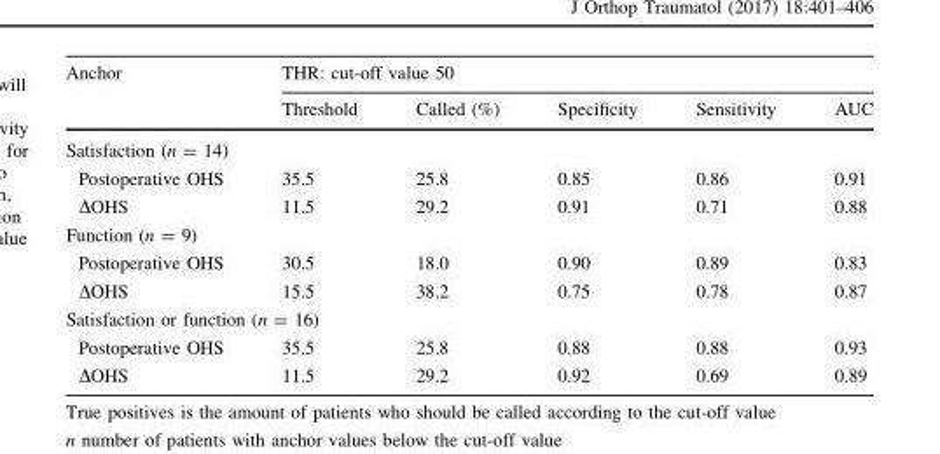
<table><thead><tr><td rowspan="2">Anchor</td><td colspan="5">THR: cut-off value 50</td></tr><tr><td>Threshold</td><td>Called (%)</td><td>Specificity</td><td>Sensitivity</td><td>AUC</td></tr></thead><tbody><tr><td colspan="6">Satisfaction (n = 14)</td></tr><tr><td>Postoperative OHS</td><td>35.5</td><td>25.8</td><td>0.85</td><td>0.86</td><td>0.91</td></tr><tr><td>ΔOHS</td><td>11.5</td><td>29.2</td><td>0.91</td><td>0.71</td><td>0.88</td></tr><tr><td colspan="6">Function (n = 9)</td></tr><tr><td>Postoperative OHS</td><td>30.5</td><td>18.0</td><td>0.90</td><td>0.89</td><td>0.83</td></tr><tr><td>ΔOHS</td><td>15.5</td><td>38.2</td><td>0.75</td><td>0.78</td><td>0.87</td></tr><tr><td colspan="6">Satisfaction or function (n = 16)</td></tr><tr><td>Postoperative OHS</td><td>35.5</td><td>25.8</td><td>0.88</td><td>0.88</td><td>0.93</td></tr><tr><td>ΔOHS</td><td>11.5</td><td>29.2</td><td>0.92</td><td>0.69</td><td>0.89</td></tr></tbody></table>